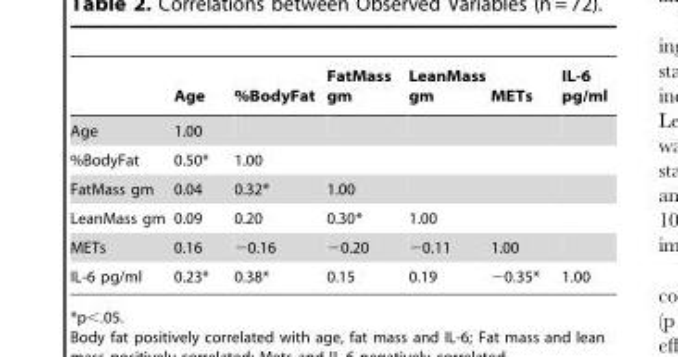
<table><thead><tr><td></td><td>Age</td><td>%BodyFat</td><td>FatMass gm</td><td>LeanMass gm</td><td>METs</td><td>IL-6 pg/ml</td></tr></thead><tbody><tr><td>Age</td><td>1.00</td><td></td><td></td><td></td><td></td><td></td></tr><tr><td>%BodyFat</td><td>0.50*</td><td>1.00</td><td></td><td></td><td></td><td></td></tr><tr><td>FatMass gm</td><td>0.04</td><td>0.32*</td><td>1.00</td><td></td><td></td><td></td></tr><tr><td>LeanMass gm</td><td>0.09</td><td>0.20</td><td>0.30*</td><td>1.00</td><td></td><td></td></tr><tr><td>METs</td><td>0.16</td><td>−0.16</td><td>−0.20</td><td>−0.11</td><td>1.00</td><td></td></tr><tr><td>IL-6 pg/ml</td><td>0.23*</td><td>0.38*</td><td>0.15</td><td>0.19</td><td>−0.35*</td><td>1.00</td></tr></tbody></table>